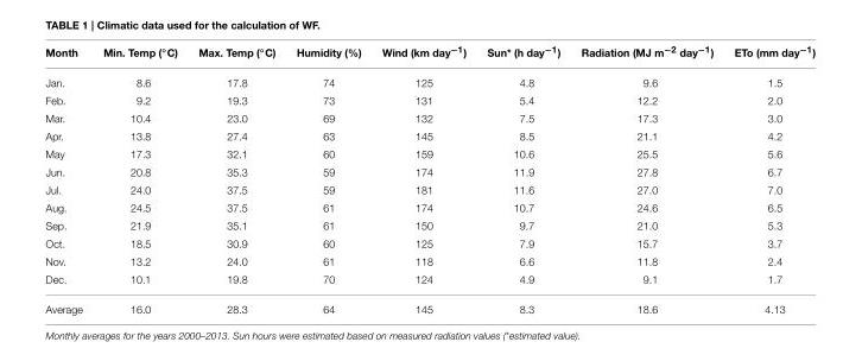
<table><thead><tr><td>Month</td><td>Min. Temp (◦C)</td><td>Max. Temp (◦C)</td><td>Humidity (%)</td><td>Wind (km day<sup>−1</sup>)</td><td>Sun* (h day<sup>−1</sup>)</td><td>Radiation (MJ m<sup>−2</sup> day<sup>−1</sup>)</td><td>ETo (mm day<sup>−1</sup>)</td></tr></thead><tbody><tr><td>Jan.</td><td>8.6</td><td>17.8</td><td>74</td><td>125</td><td>4.8</td><td>9.6</td><td>1.5</td></tr><tr><td>Feb.</td><td>9.2</td><td>19.3</td><td>73</td><td>131</td><td>5.4</td><td>12.2</td><td>2.0</td></tr><tr><td>Mar.</td><td>10.4</td><td>23.0</td><td>69</td><td>132</td><td>7.5</td><td>17.3</td><td>3.0</td></tr><tr><td>Apr.</td><td>13.8</td><td>27.4</td><td>63</td><td>145</td><td>8.5</td><td>21.1</td><td>4.2</td></tr><tr><td>May</td><td>17.3</td><td>32.1</td><td>60</td><td>159</td><td>10.6</td><td>25.5</td><td>5.6</td></tr><tr><td>Jun.</td><td>20.8</td><td>35.3</td><td>59</td><td>174</td><td>11.9</td><td>27.8</td><td>6.7</td></tr><tr><td>Jul.</td><td>24.0</td><td>37.5</td><td>59</td><td>181</td><td>11.6</td><td>27.0</td><td>7.0</td></tr><tr><td>Aug.</td><td>24.5</td><td>37.5</td><td>61</td><td>174</td><td>10.7</td><td>24.6</td><td>6.5</td></tr><tr><td>Sep.</td><td>21.9</td><td>35.1</td><td>61</td><td>150</td><td>9.7</td><td>21.0</td><td>5.3</td></tr><tr><td>Oct.</td><td>18.5</td><td>30.9</td><td>60</td><td>125</td><td>7.9</td><td>15.7</td><td>3.7</td></tr><tr><td>Nov.</td><td>13.2</td><td>24.0</td><td>61</td><td>118</td><td>6.6</td><td>11.8</td><td>2.4</td></tr><tr><td>Dec.</td><td>10.1</td><td>19.8</td><td>70</td><td>124</td><td>4.9</td><td>9.1</td><td>1.7</td></tr><tr><td>Average</td><td>16.0</td><td>28.3</td><td>64</td><td>145</td><td>8.3</td><td>18.6</td><td>4.13</td></tr></tbody></table>